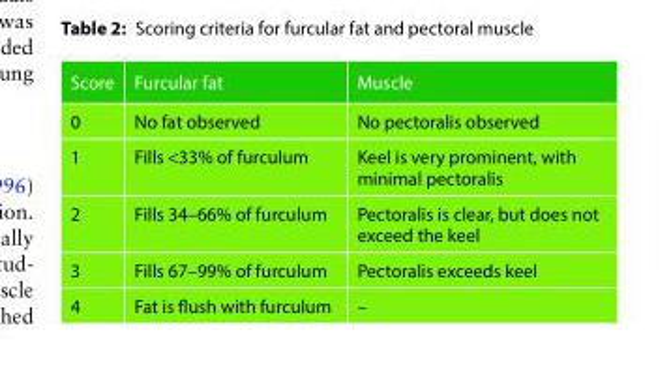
<table><thead><tr><td>Score</td><td>Furcular fat</td><td>Muscle</td></tr></thead><tbody><tr><td>0</td><td>No fat observed</td><td>No pectoralis observed</td></tr><tr><td>1</td><td>Fills &lt;33% of furculum</td><td>Keel is very prominent, with minimal pectoralis</td></tr><tr><td>2</td><td>Fills 34–66% of furculum</td><td>Pectoralis is clear, but does not exceed the keel</td></tr><tr><td>3</td><td>Fills 67–99% of furculum</td><td>Pectoralis exceeds keel</td></tr><tr><td>4</td><td>Fat is flush with furculum</td><td>–</td></tr></tbody></table>